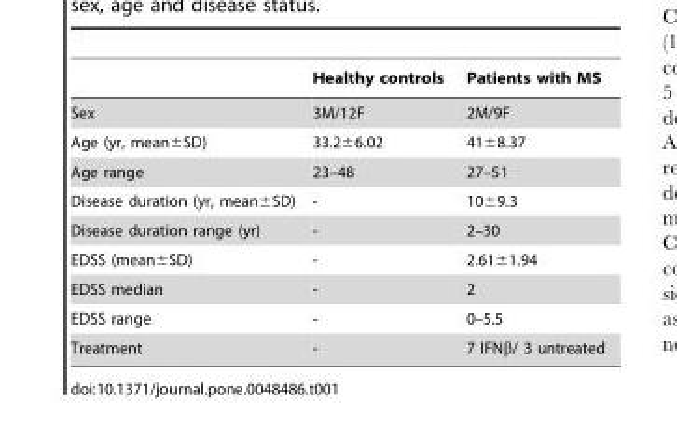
<table><thead><tr><td></td><td>Healthy controls</td><td>Patients with MS</td></tr></thead><tbody><tr><td>Sex</td><td>3M/12F</td><td>2M/9F</td></tr><tr><td>Age (yr, mean±SD)</td><td>33.2±6.02</td><td>41±8.37</td></tr><tr><td>Age range</td><td>23–48</td><td>27–51</td></tr><tr><td>Disease duration (yr, mean±SD)</td><td>-</td><td>10±9.3</td></tr><tr><td>Disease duration range (yr)</td><td>-</td><td>2–30</td></tr><tr><td>EDSS (mean±SD)</td><td>-</td><td>2.61±1.94</td></tr><tr><td>EDSS median</td><td>-</td><td>2</td></tr><tr><td>EDSS range</td><td>-</td><td>0–5.5</td></tr><tr><td>Treatment</td><td>-</td><td>7 IFNβ/ 3 untreated</td></tr></tbody></table>